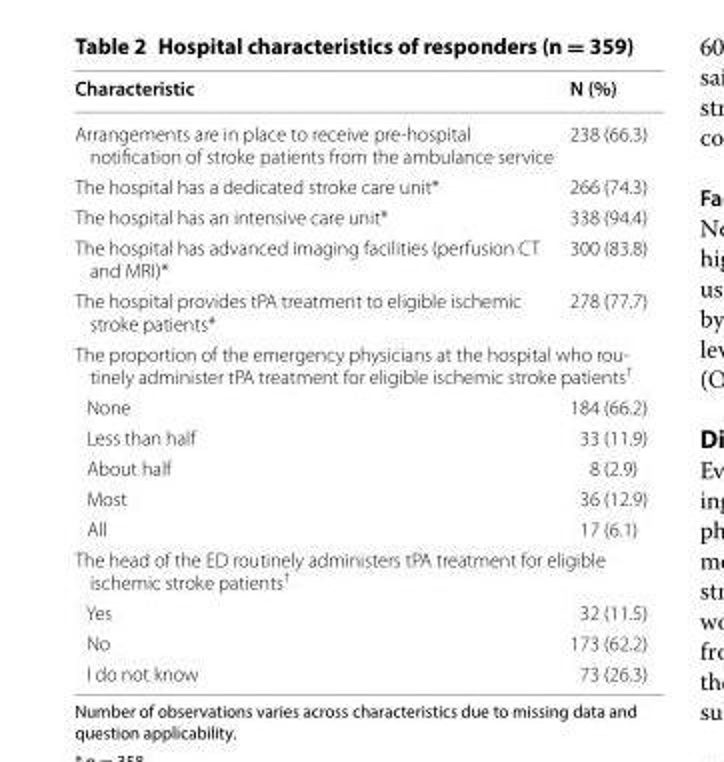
<table><thead><tr><td>Characteristic</td><td>N (%)</td></tr></thead><tbody><tr><td>Arrangements are in place to receive pre‑hospital notification of stroke patients from the ambulance service</td><td>238 (66.3)</td></tr><tr><td>The hospital has a dedicated stroke care unit*</td><td>266 (74.3)</td></tr><tr><td>The hospital has an intensive care unit*</td><td>338 (94.4)</td></tr><tr><td>The hospital has advanced imaging facilities (perfusion CT and MRI)*</td><td>300 (83.8)</td></tr><tr><td>The hospital provides tPA treatment to eligible ischemic stroke patients*</td><td>278 (77.7)</td></tr><tr><td colspan="2">The proportion of the emergency physicians at the hospital who rou‑ tinely administer tPA treatment for eligible ischemic stroke patients†</td></tr><tr><td>None</td><td>184 (66.2)</td></tr><tr><td>Less than half</td><td>33 (11.9)</td></tr><tr><td>About half</td><td>8 (2.9)</td></tr><tr><td>Most</td><td>36 (12.9)</td></tr><tr><td>All</td><td>17 (6.1)</td></tr><tr><td colspan="2">The head of the ED routinely administers tPA treatment for eligible ischemic stroke patients<sup>†</sup></td></tr><tr><td>Yes</td><td>32 (11.5)</td></tr><tr><td>No</td><td>173 (62.2)</td></tr><tr><td>I do not know</td><td>73 (26.3)</td></tr></tbody></table>